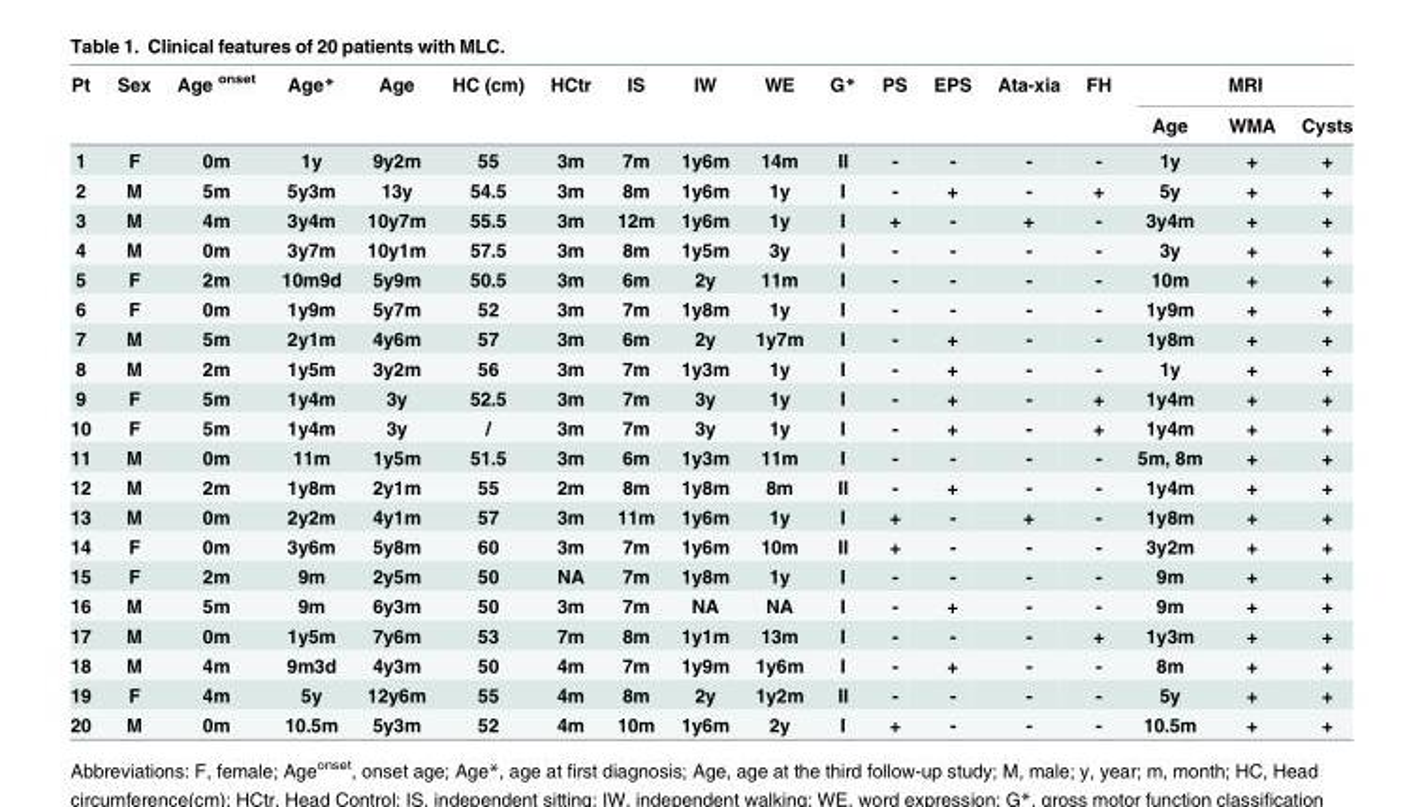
<table><thead><tr><td rowspan="2">Pt</td><td rowspan="2">Sex</td><td rowspan="2">Age <sup>onset</sup></td><td rowspan="2">Age*</td><td rowspan="2">Age</td><td rowspan="2">HC (cm)</td><td rowspan="2">HCtr</td><td rowspan="2">IS</td><td rowspan="2">IW</td><td rowspan="2">WE</td><td rowspan="2">G*</td><td rowspan="2">PS</td><td rowspan="2">EPS</td><td rowspan="2">Ata-xia</td><td rowspan="2">FH</td><td colspan="3">MRI</td></tr><tr><td>Age</td><td>WMA</td><td>Cysts</td></tr></thead><tbody><tr><td>1</td><td>F</td><td>0m</td><td>1y</td><td>9y2m</td><td>55</td><td>3m</td><td>7m</td><td>1y6m</td><td>14m</td><td>II</td><td>-</td><td>-</td><td>-</td><td>-</td><td>1y</td><td>+</td><td>+</td></tr><tr><td>2</td><td>M</td><td>5m</td><td>5y3m</td><td>13y</td><td>54.5</td><td>3m</td><td>8m</td><td>1y6m</td><td>1y</td><td>I</td><td>-</td><td>+</td><td>-</td><td>+</td><td>5y</td><td>+</td><td>+</td></tr><tr><td>3</td><td>M</td><td>4m</td><td>3y4m</td><td>10y7m</td><td>55.5</td><td>3m</td><td>12m</td><td>1y6m</td><td>1y</td><td>I</td><td>+</td><td>-</td><td>+</td><td>-</td><td>3y4m</td><td>+</td><td>+</td></tr><tr><td>4</td><td>M</td><td>0m</td><td>3y7m</td><td>10y1m</td><td>57.5</td><td>3m</td><td>8m</td><td>1y5m</td><td>3y</td><td>I</td><td>-</td><td>-</td><td>-</td><td>-</td><td>3y</td><td>+</td><td>+</td></tr><tr><td>5</td><td>F</td><td>2m</td><td>10m9d</td><td>5y9m</td><td>50.5</td><td>3m</td><td>6m</td><td>2y</td><td>11m</td><td>I</td><td>-</td><td>-</td><td>-</td><td>-</td><td>10m</td><td>+</td><td>+</td></tr><tr><td>6</td><td>F</td><td>0m</td><td>1y9m</td><td>5y7m</td><td>52</td><td>3m</td><td>7m</td><td>1y8m</td><td>1y</td><td>I</td><td>-</td><td>-</td><td>-</td><td>-</td><td>1y9m</td><td>+</td><td>+</td></tr><tr><td>7</td><td>M</td><td>5m</td><td>2y1m</td><td>4y6m</td><td>57</td><td>3m</td><td>6m</td><td>2y</td><td>1y7m</td><td>I</td><td>-</td><td>+</td><td>-</td><td>-</td><td>1y8m</td><td>+</td><td>+</td></tr><tr><td>8</td><td>M</td><td>2m</td><td>1y5m</td><td>3y2m</td><td>56</td><td>3m</td><td>7m</td><td>1y3m</td><td>1y</td><td>I</td><td>-</td><td>+</td><td>-</td><td>-</td><td>1y</td><td>+</td><td>+</td></tr><tr><td>9</td><td>F</td><td>5m</td><td>1y4m</td><td>3y</td><td>52.5</td><td>3m</td><td>7m</td><td>3y</td><td>1y</td><td>I</td><td>-</td><td>+</td><td>-</td><td>+</td><td>1y4m</td><td>+</td><td>+</td></tr><tr><td>10</td><td>F</td><td>5m</td><td>1y4m</td><td>3y</td><td>/</td><td>3m</td><td>7m</td><td>3y</td><td>1y</td><td>I</td><td>-</td><td>+</td><td>-</td><td>+</td><td>1y4m</td><td>+</td><td>+</td></tr><tr><td>11</td><td>M</td><td>0m</td><td>11m</td><td>1y5m</td><td>51.5</td><td>3m</td><td>6m</td><td>1y3m</td><td>11m</td><td>I</td><td>-</td><td>-</td><td>-</td><td>-</td><td>5m, 8m</td><td>+</td><td>+</td></tr><tr><td>12</td><td>M</td><td>2m</td><td>1y8m</td><td>2y1m</td><td>55</td><td>2m</td><td>8m</td><td>1y8m</td><td>8m</td><td>II</td><td>-</td><td>+</td><td>-</td><td>-</td><td>1y4m</td><td>+</td><td>+</td></tr><tr><td>13</td><td>M</td><td>0m</td><td>2y2m</td><td>4y1m</td><td>57</td><td>3m</td><td>11m</td><td>1y6m</td><td>1y</td><td>I</td><td>+</td><td>-</td><td>+</td><td>-</td><td>1y8m</td><td>+</td><td>+</td></tr><tr><td>14</td><td>F</td><td>0m</td><td>3y6m</td><td>5y8m</td><td>60</td><td>3m</td><td>7m</td><td>1y6m</td><td>10m</td><td>II</td><td>+</td><td>-</td><td>-</td><td>-</td><td>3y2m</td><td>+</td><td>+</td></tr><tr><td>15</td><td>F</td><td>2m</td><td>9m</td><td>2y5m</td><td>50</td><td>NA</td><td>7m</td><td>1y8m</td><td>1y</td><td>I</td><td>-</td><td>-</td><td>-</td><td>-</td><td>9m</td><td>+</td><td>+</td></tr><tr><td>16</td><td>M</td><td>5m</td><td>9m</td><td>6y3m</td><td>50</td><td>3m</td><td>7m</td><td>NA</td><td>NA</td><td>I</td><td>-</td><td>+</td><td>-</td><td>-</td><td>9m</td><td>+</td><td>+</td></tr><tr><td>17</td><td>M</td><td>0m</td><td>1y5m</td><td>7y6m</td><td>53</td><td>7m</td><td>8m</td><td>1y1m</td><td>13m</td><td>I</td><td>-</td><td>-</td><td>-</td><td>+</td><td>1y3m</td><td>+</td><td>+</td></tr><tr><td>18</td><td>M</td><td>4m</td><td>9m3d</td><td>4y3m</td><td>50</td><td>4m</td><td>7m</td><td>1y9m</td><td>1y6m</td><td>I</td><td>-</td><td>+</td><td>-</td><td>-</td><td>8m</td><td>+</td><td>+</td></tr><tr><td>19</td><td>F</td><td>4m</td><td>5y</td><td>12y6m</td><td>55</td><td>4m</td><td>8m</td><td>2y</td><td>1y2m</td><td>II</td><td>-</td><td>-</td><td>-</td><td>-</td><td>5y</td><td>+</td><td>+</td></tr><tr><td>20</td><td>M</td><td>0m</td><td>10.5m</td><td>5y3m</td><td>52</td><td>4m</td><td>10m</td><td>1y6m</td><td>2y</td><td>I</td><td>+</td><td>-</td><td>-</td><td>-</td><td>10.5m</td><td>+</td><td>+</td></tr></tbody></table>